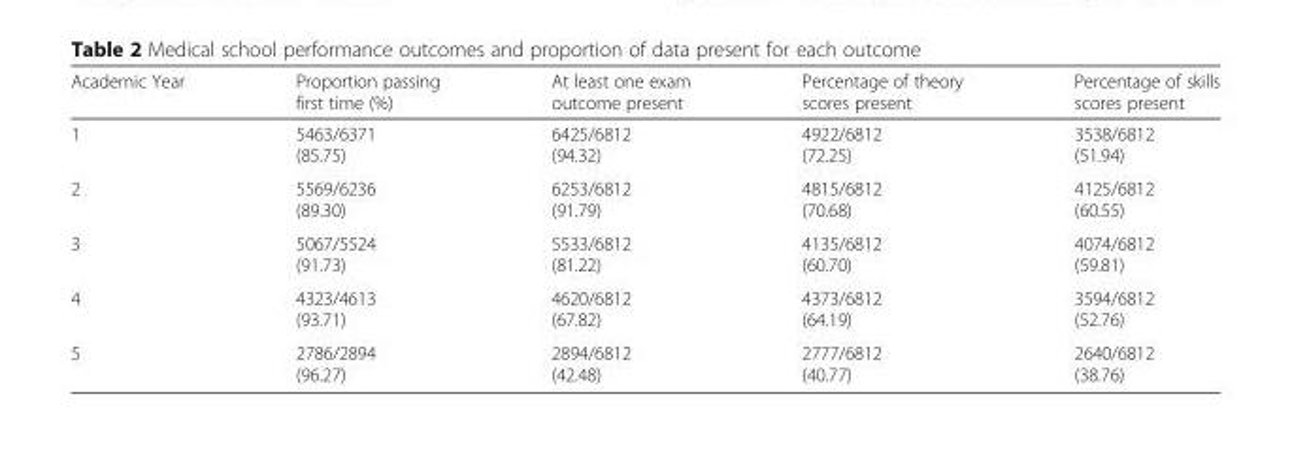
<table><thead><tr><td>Academic Year</td><td>Proportion passing first time (%)</td><td>At least one exam outcome present</td><td>Percentage of theory scores present</td><td>Percentage of skills scores present</td></tr></thead><tbody><tr><td>1</td><td>5463/6371 (85.75)</td><td>6425/6812 (94.32)</td><td>4922/6812 (72.25)</td><td>3538/6812 (51.94)</td></tr><tr><td>2</td><td>5569/6236 (89.30)</td><td>6253/6812 (91.79)</td><td>4815/6812 (70.68)</td><td>4125/6812 (60.55)</td></tr><tr><td>3</td><td>5067/5524 (91.73)</td><td>5533/6812 (81.22)</td><td>4135/6812 (60.70)</td><td>4074/6812 (59.81)</td></tr><tr><td>4</td><td>4323/4613 (93.71)</td><td>4620/6812 (67.82)</td><td>4373/6812 (64.19)</td><td>3594/6812 (52.76)</td></tr><tr><td>5</td><td>2786/2894 (96.27)</td><td>2894/6812 (42.48)</td><td>2777/6812 (40.77)</td><td>2640/6812 (38.76)</td></tr></tbody></table>